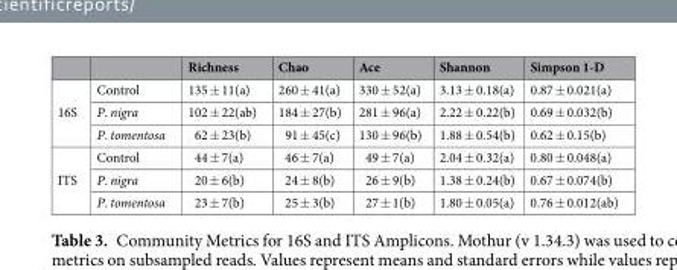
<table><thead><tr><td></td><td></td><td>Richness</td><td>Chao</td><td>Ace</td><td>Shannon</td><td>Simpson 1-D</td></tr></thead><tbody><tr><td rowspan="3">16S</td><td>Control</td><td>135 ± 11(a)</td><td>260 ± 41(a)</td><td>330 ± 52(a)</td><td>3.13 ± 0.18(a)</td><td>0.87 ± 0.021(a)</td></tr><tr><td>P. nigra</td><td>102 ± 22(ab)</td><td>184 ± 27(b)</td><td>281 ± 96(a)</td><td>2.22 ± 0.22(b)</td><td>0.69 ± 0.032(b)</td></tr><tr><td>P. tomentosa</td><td>62 ± 23(b)</td><td>91 ± 45(c)</td><td>130 ± 96(b)</td><td>1.88 ± 0.54(b)</td><td>0.62 ± 0.15(b)</td></tr><tr><td rowspan="3">ITS</td><td>Control</td><td>44 ± 7(a)</td><td>46 ± 7(a)</td><td>49 ± 7(a)</td><td>2.04 ± 0.32(a)</td><td>0.80 ± 0.048(a)</td></tr><tr><td>P. nigra</td><td>20 ± 6(b)</td><td>24 ± 8(b)</td><td>26 ± 9(b)</td><td>1.38 ± 0.24(b)</td><td>0.67 ± 0.074(b)</td></tr><tr><td>P. tomentosa</td><td>23 ± 7(b)</td><td>25 ± 3(b)</td><td>27 ± 1(b)</td><td>1.80 ± 0.05(a)</td><td>0.76 ± 0.012(ab)</td></tr></tbody></table>